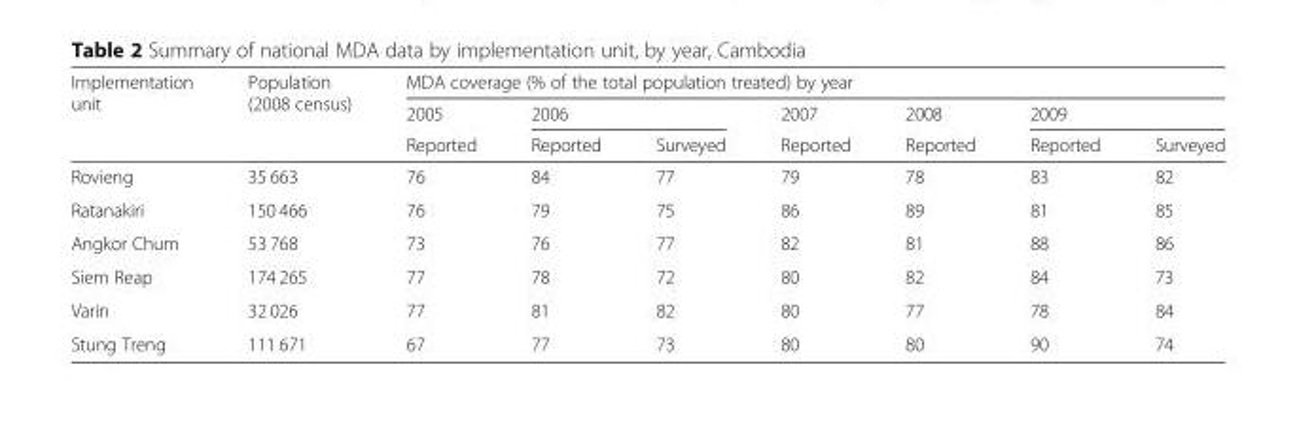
<table><thead><tr><td rowspan="3">Implementation unit</td><td rowspan="3">Population (2008 census)</td><td colspan="7">MDA coverage (% of the total population treated) by year</td></tr><tr><td rowspan="2">2005 Reported</td><td colspan="2">2006</td><td rowspan="2">2007 Reported</td><td rowspan="2">2008 Reported</td><td colspan="2">2009</td></tr><tr><td>Reported</td><td>Surveyed</td><td>Reported</td><td>Surveyed</td></tr></thead><tbody><tr><td>Rovieng</td><td>35 663</td><td>76</td><td>84</td><td>77</td><td>79</td><td>78</td><td>83</td><td>82</td></tr><tr><td>Ratanakiri</td><td>150 466</td><td>76</td><td>79</td><td>75</td><td>86</td><td>89</td><td>81</td><td>85</td></tr><tr><td>Angkor Chum</td><td>53 768</td><td>73</td><td>76</td><td>77</td><td>82</td><td>81</td><td>88</td><td>86</td></tr><tr><td>Siem Reap</td><td>174 265</td><td>77</td><td>78</td><td>72</td><td>80</td><td>82</td><td>84</td><td>73</td></tr><tr><td>Varin</td><td>32 026</td><td>77</td><td>81</td><td>82</td><td>80</td><td>77</td><td>78</td><td>84</td></tr><tr><td>Stung Treng</td><td>111 671</td><td>67</td><td>77</td><td>73</td><td>80</td><td>80</td><td>90</td><td>74</td></tr></tbody></table>